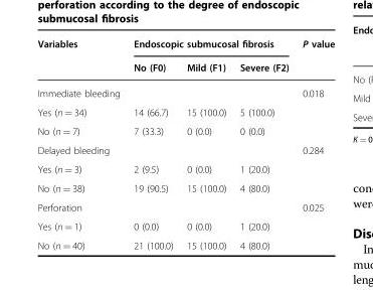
<table><thead><tr><td rowspan="2">Variables</td><td colspan="3">Endoscopic submucosal fibrosis</td><td rowspan="2">P value</td></tr><tr><td>No (F0)</td><td>Mild (F1)</td><td>Severe (F2)</td></tr></thead><tbody><tr><td>Immediate bleeding</td><td></td><td></td><td></td><td>0.018</td></tr><tr><td>Yes (n = 34)</td><td>14 (66.7)</td><td>15 (100.0)</td><td>5 (100.0)</td><td></td></tr><tr><td>No (n = 7)</td><td>7 (33.3)</td><td>0 (0.0)</td><td>0 (0.0)</td><td></td></tr><tr><td>Delayed bleeding</td><td></td><td></td><td></td><td>0.284</td></tr><tr><td>Yes (n = 3)</td><td>2 (9.5)</td><td>0 (0.0)</td><td>1 (20.0)</td><td></td></tr><tr><td>No (n = 38)</td><td>19 (90.5)</td><td>15 (100.0)</td><td>4 (80.0)</td><td></td></tr><tr><td>Perforation</td><td></td><td></td><td></td><td>0.025</td></tr><tr><td>Yes (n = 1)</td><td>0 (0.0)</td><td>0 (0.0)</td><td>1 (20.0)</td><td></td></tr><tr><td>No (n = 40)</td><td>21 (100.0)</td><td>15 (100.0)</td><td>4 (80.0)</td><td></td></tr></tbody></table>